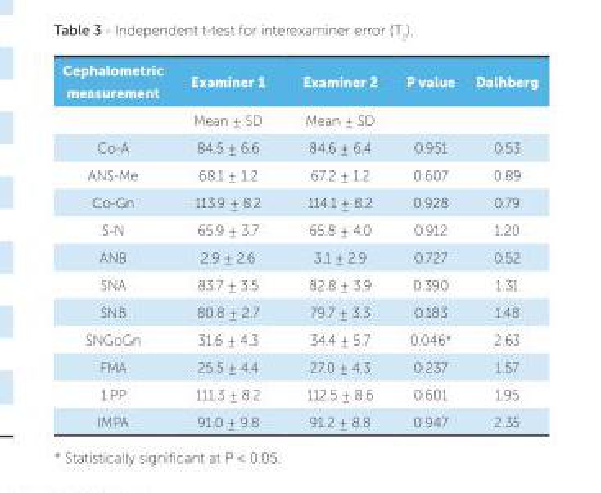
<table><thead><tr><td rowspan="2">Cephalometric measurement</td><td rowspan="2">Examiner 1 Mean ± SD</td><td rowspan="2">Examiner 2 Mean ± SD</td><td rowspan="2">P value</td><td rowspan="2">Dalhberg</td></tr><tr></tr></thead><tbody><tr><td>Co-A</td><td>84.5 ± 6.6</td><td>84.6 ± 6.4</td><td>0.951</td><td>0.53</td></tr><tr><td>ANS-Me</td><td>68.1 ± 1.2</td><td>67.2 ± 1.2</td><td>0.607</td><td>0.89</td></tr><tr><td>Co-Gn</td><td>113.9 ± 8.2</td><td>114.1 ± 8.2</td><td>0.928</td><td>0.79</td></tr><tr><td>S-N</td><td>65.9 ± 3.7</td><td>65.8 ± 4.0</td><td>0.912</td><td>1.20</td></tr><tr><td>ANB</td><td>2.9 ± 2.6</td><td>3.1 ± 2.9</td><td>0.727</td><td>0.52</td></tr><tr><td>SNA</td><td>83.7 ± 3.5</td><td>82.8 ± 3.9</td><td>0.390</td><td>1.31</td></tr><tr><td>SNB</td><td>80.8 ± 2.7</td><td>79.7 ± 3.3</td><td>0.183</td><td>1.48</td></tr><tr><td>SNGoGn</td><td>31.6 ± 4.3</td><td>34.4 ± 5.7</td><td>0.046*</td><td>2.63</td></tr><tr><td>FMA</td><td>25.5 ± 4.4</td><td>27.0 ± 4.3</td><td>0.237</td><td>1.57</td></tr><tr><td>1.PP</td><td>111.3 ± 8.2</td><td>112.5 ± 8.6</td><td>0.601</td><td>1.95</td></tr><tr><td>IMPA</td><td>91.0 ± 9.8</td><td>91.2 ± 8.8</td><td>0.947</td><td>2.35</td></tr></tbody></table>